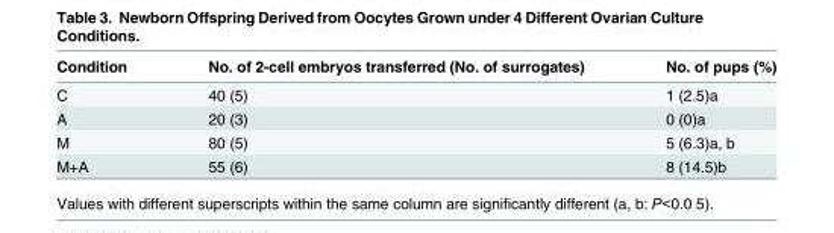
<table><thead><tr><td>Condition</td><td>No. of 2-cell embryos transferred (No. of surrogates)</td><td>No. of pups (%)</td></tr></thead><tbody><tr><td>C</td><td>40 (5)</td><td>1 (2.5)a</td></tr><tr><td>A</td><td>20 (3)</td><td>0 (0)a</td></tr><tr><td>M</td><td>80 (5)</td><td>5 (6.3)a, b</td></tr><tr><td>M+A</td><td>55 (6)</td><td>8 (14.5)b</td></tr></tbody></table>